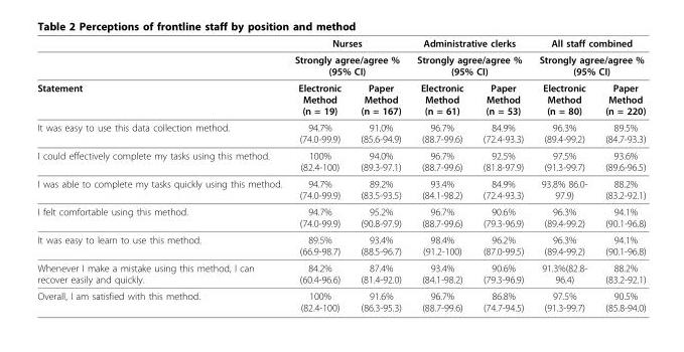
<table><thead><tr><td rowspan="3">Statement</td><td rowspan="2" colspan="2">Nurses Strongly agree/agree % (95% CI)</td><td rowspan="2" colspan="2">Administrative clerks Strongly agree/agree % (95% CI)</td><td rowspan="2" colspan="2">All staff combined Strongly agree/agree % (95% CI)</td></tr><tr></tr><tr><td>Electronic Method (n = 19)</td><td>Paper Method (n = 167)</td><td>Electronic Method (n = 61)</td><td>Paper Method (n = 53)</td><td>Electronic Method (n = 80)</td><td>Paper Method (n = 220)</td></tr></thead><tbody><tr><td>It was easy to use this data collection method.</td><td>94.7% (74.0-99.9)</td><td>91.0% (85.6-94.9)</td><td>96.7% (88.7-99.6)</td><td>84.9% (72.4-93.3)</td><td>96.3% (89.4-99.2)</td><td>89.5% (84.7-93.3)</td></tr><tr><td>I could effectively complete my tasks using this method.</td><td>100% (82.4-100)</td><td>94.0% (89.3-97.1)</td><td>96.7% (88.7-99.6)</td><td>92.5% (81.8-97.9)</td><td>97.5% (91.3-99.7)</td><td>93.6% (89.6-96.5)</td></tr><tr><td>I was able to complete my tasks quickly using this method.</td><td>94.7% (74.0-99.9)</td><td>89.2% (83.5-93.5)</td><td>93.4% (84.1-98.2)</td><td>84.9% (72.4-93.3)</td><td>93.8% 86.0- 97.9)</td><td>88.2% (83.2-92.1)</td></tr><tr><td>I felt comfortable using this method.</td><td>94.7% (74.0-99.9)</td><td>95.2% (90.8-97.9)</td><td>96.7% (88.7-99.6)</td><td>90.6% (79.3-96.9)</td><td>96.3% (89.4-99.2)</td><td>94.1% (90.1-96.8)</td></tr><tr><td>It was easy to learn to use this method.</td><td>89.5% (66.9-98.7)</td><td>93.4% (88.5-96.7)</td><td>98.4% (91.2-100)</td><td>96.2% (87.0-99.5)</td><td>96.3% (89.4-99.2)</td><td>94.1% (90.1-96.8)</td></tr><tr><td>Whenever I make a mistake using this method, I can recover easily and quickly.</td><td>84.2% (60.4-96.6)</td><td>87.4% (81.4-92.0)</td><td>93.4% (84.1-98.2)</td><td>90.6% (79.3-96.9)</td><td>91.3%(82.8- 96.4)</td><td>88.2% (83.2-92.1)</td></tr><tr><td>Overall, I am satisfied with this method.</td><td>100% (82.4-100)</td><td>91.6% (86.3-95.3)</td><td>96.7% (88.7-99.6)</td><td>86.8% (74.7-94.5)</td><td>97.5% (91.3-99.7)</td><td>90.5% (85.8-94.0)</td></tr></tbody></table>